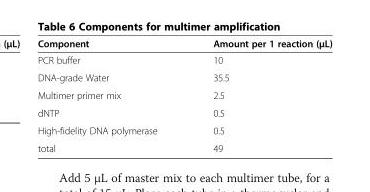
<table><thead><tr><td>Component</td><td>Amount per 1 reaction (μL)</td></tr></thead><tbody><tr><td>PCR buffer</td><td>10</td></tr><tr><td>DNA-grade Water</td><td>35.5</td></tr><tr><td>Multimer primer mix</td><td>2.5</td></tr><tr><td>dNTP</td><td>0.5</td></tr><tr><td>High-fidelity DNA polymerase</td><td>0.5</td></tr><tr><td>total</td><td>49</td></tr></tbody></table>